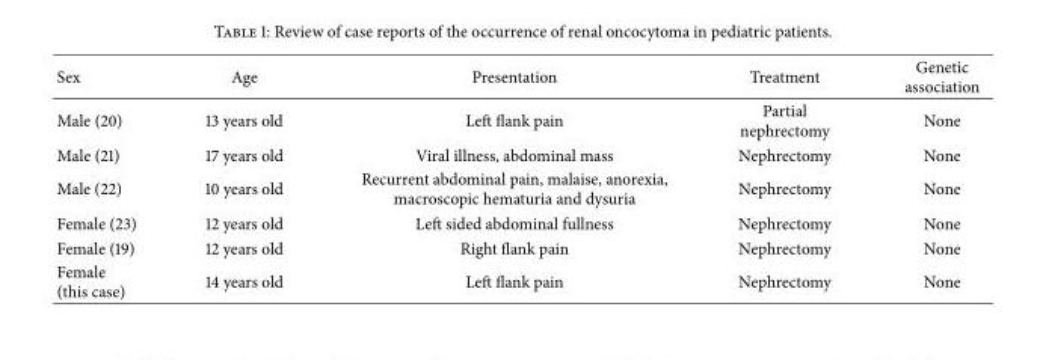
<table><thead><tr><td>Sex</td><td>Age</td><td>Presentation</td><td>Treatment</td><td>Genetic association</td></tr></thead><tbody><tr><td>Male (20)</td><td>13 years old</td><td>Left flank pain</td><td>Partial nephrectomy</td><td>None</td></tr><tr><td>Male (21)</td><td>17 years old</td><td>Viral illness, abdominal mass</td><td>Nephrectomy</td><td>None</td></tr><tr><td>Male (22)</td><td>10 years old</td><td>Recurrent abdominal pain, malaise, anorexia, macroscopic hematuria and dysuria</td><td>Nephrectomy</td><td>None</td></tr><tr><td>Female (23)</td><td>12 years old</td><td>Left sided abdominal fullness</td><td>Nephrectomy</td><td>None</td></tr><tr><td>Female (19)</td><td>12 years old</td><td>Right flank pain</td><td>Nephrectomy</td><td>None</td></tr><tr><td>Female (this case)</td><td>14 years old</td><td>Left flank pain</td><td>Nephrectomy</td><td>None</td></tr></tbody></table>